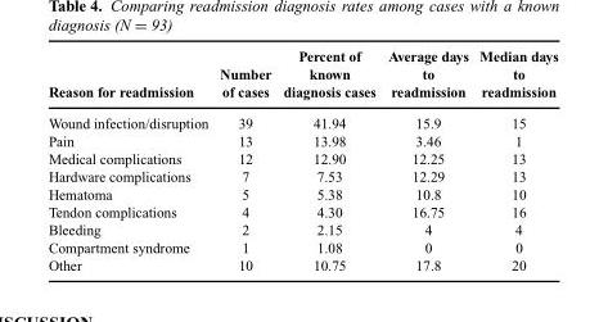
<table><thead><tr><td>Reason for readmission</td><td>Number of cases</td><td>Percent of known diagnosis cases</td><td>Average days to readmission</td><td>Median days to readmission</td></tr></thead><tbody><tr><td>Wound infection/disruption</td><td>39</td><td>41.94</td><td>15.9</td><td>15</td></tr><tr><td>Pain</td><td>13</td><td>13.98</td><td>3.46</td><td>1</td></tr><tr><td>Medical complications</td><td>12</td><td>12.90</td><td>12.25</td><td>13</td></tr><tr><td>Hardware complications</td><td>7</td><td>7.53</td><td>12.29</td><td>13</td></tr><tr><td>Hematoma</td><td>5</td><td>5.38</td><td>10.8</td><td>10</td></tr><tr><td>Tendon complications</td><td>4</td><td>4.30</td><td>16.75</td><td>16</td></tr><tr><td>Bleeding</td><td>2</td><td>2.15</td><td>4</td><td>4</td></tr><tr><td>Compartment syndrome</td><td>1</td><td>1.08</td><td>0</td><td>0</td></tr><tr><td>Other</td><td>10</td><td>10.75</td><td>17.8</td><td>20</td></tr></tbody></table>